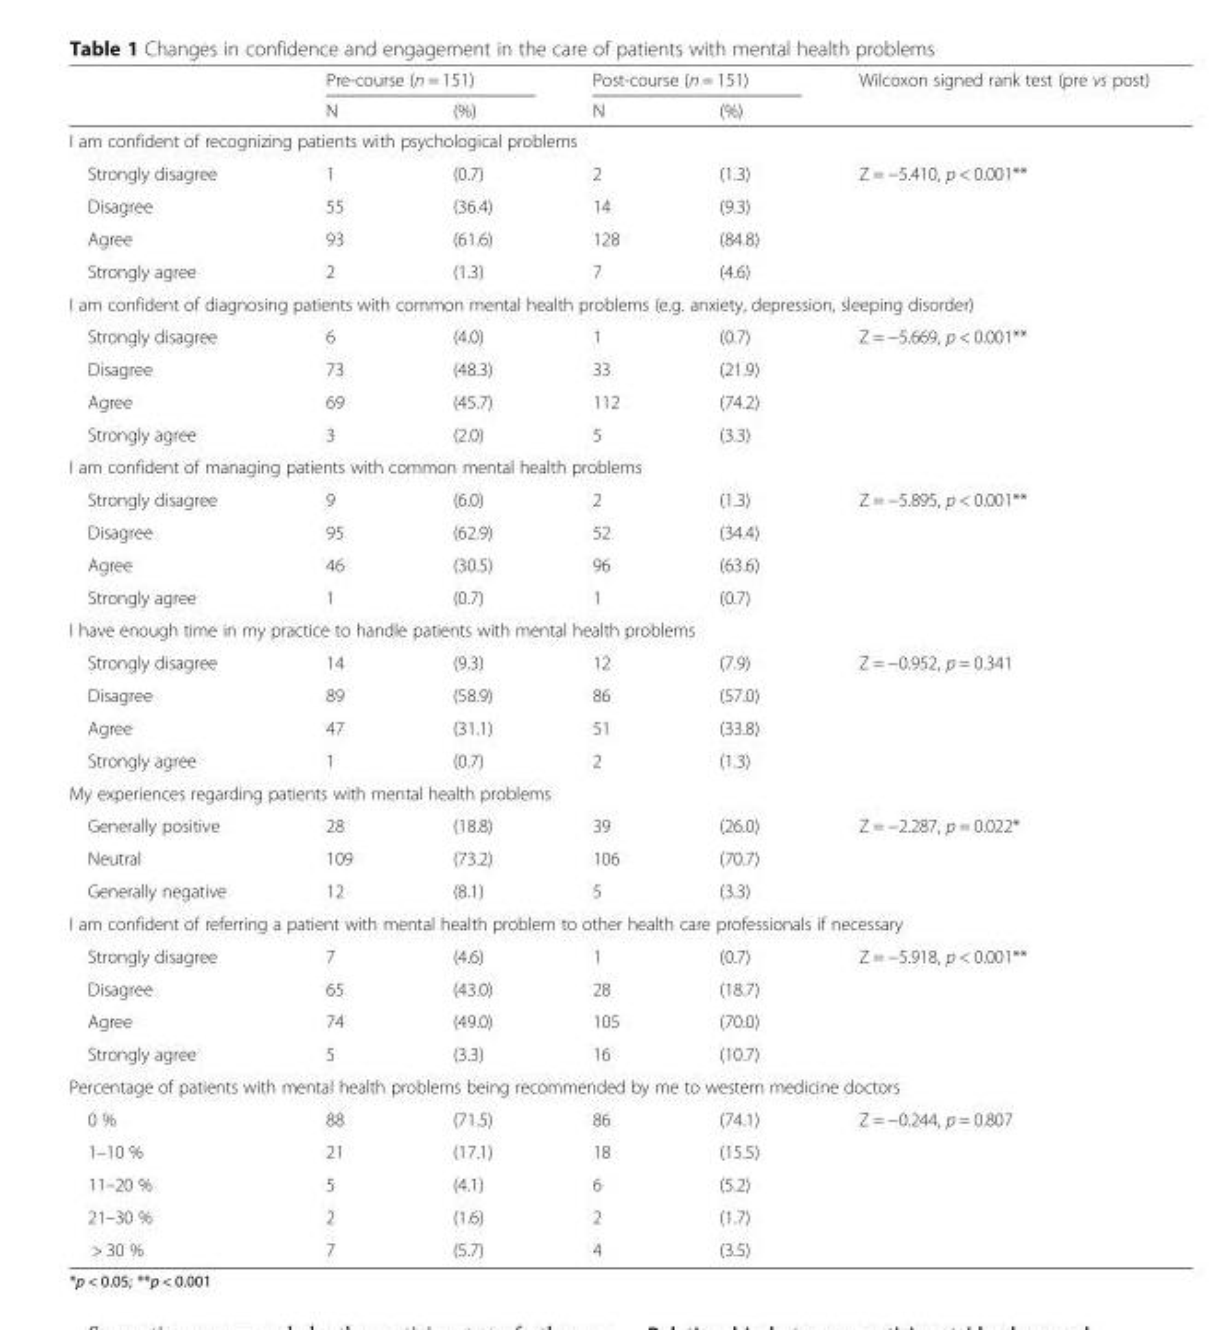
<table><thead><tr><td rowspan="2"></td><td colspan="2">Pre-course (n = 151)</td><td colspan="2">Post-course (n = 151)</td><td rowspan="2">Wilcoxon signed rank test (pre vs post)</td></tr><tr><td>N</td><td>(%)</td><td>N</td><td>(%)</td></tr></thead><tbody><tr><td colspan="6">I am confident of recognizing patients with psychological problems</td></tr><tr><td>Strongly disagree</td><td>1</td><td>(0.7)</td><td>2</td><td>(1.3)</td><td rowspan="4">Z = −5.410, p &lt; 0.001**</td></tr><tr><td>Disagree</td><td>55</td><td>(36.4)</td><td>14</td><td>(9.3)</td></tr><tr><td>Agree</td><td>93</td><td>(61.6)</td><td>128</td><td>(84.8)</td></tr><tr><td>Strongly agree</td><td>2</td><td>(1.3)</td><td>7</td><td>(4.6)</td></tr><tr><td colspan="6">I am confident of diagnosing patients with common mental health problems (e.g. anxiety, depression, sleeping disorder)</td></tr><tr><td>Strongly disagree</td><td>6</td><td>(4.0)</td><td>1</td><td>(0.7)</td><td rowspan="4">Z = −5.669, p &lt; 0.001**</td></tr><tr><td>Disagree</td><td>73</td><td>(48.3)</td><td>33</td><td>(21.9)</td></tr><tr><td>Agree</td><td>69</td><td>(45.7)</td><td>112</td><td>(74.2)</td></tr><tr><td>Strongly agree</td><td>3</td><td>(2.0)</td><td>5</td><td>(3.3)</td></tr><tr><td colspan="6">I am confident of managing patients with common mental health problems</td></tr><tr><td>Strongly disagree</td><td>9</td><td>(6.0)</td><td>2</td><td>(1.3)</td><td rowspan="4">Z = −5.895, p &lt; 0.001**</td></tr><tr><td>Disagree</td><td>95</td><td>(62.9)</td><td>52</td><td>(34.4)</td></tr><tr><td>Agree</td><td>46</td><td>(30.5)</td><td>96</td><td>(63.6)</td></tr><tr><td>Strongly agree</td><td>1</td><td>(0.7)</td><td>1</td><td>(0.7)</td></tr><tr><td colspan="6">I have enough time in my practice to handle patients with mental health problems</td></tr><tr><td>Strongly disagree</td><td>14</td><td>(9.3)</td><td>12</td><td>(7.9)</td><td rowspan="4">Z = −0.952, p = 0.341</td></tr><tr><td>Disagree</td><td>89</td><td>(58.9)</td><td>86</td><td>(57.0)</td></tr><tr><td>Agree</td><td>47</td><td>(31.1)</td><td>51</td><td>(33.8)</td></tr><tr><td>Strongly agree</td><td>1</td><td>(0.7)</td><td>2</td><td>(1.3)</td></tr><tr><td colspan="6">My experiences regarding patients with mental health problems</td></tr><tr><td>Generally positive</td><td>28</td><td>(18.8)</td><td>39</td><td>(26.0)</td><td rowspan="3">Z = −2.287, p = 0.022*</td></tr><tr><td>Neutral</td><td>109</td><td>(73.2)</td><td>106</td><td>(70.7)</td></tr><tr><td>Generally negative</td><td>12</td><td>(8.1)</td><td>5</td><td>(3.3)</td></tr><tr><td colspan="6">I am confident of referring a patient with mental health problem to other health care professionals if necessary</td></tr><tr><td>Strongly disagree</td><td>7</td><td>(4.6)</td><td>1</td><td>(0.7)</td><td rowspan="4">Z = −5.918, p &lt; 0.001**</td></tr><tr><td>Disagree</td><td>65</td><td>(43.0)</td><td>28</td><td>(18.7)</td></tr><tr><td>Agree</td><td>74</td><td>(49.0)</td><td>105</td><td>(70.0)</td></tr><tr><td>Strongly agree</td><td>5</td><td>(3.3)</td><td>16</td><td>(10.7)</td></tr><tr><td colspan="6">Percentage of patients with mental health problems being recommended by me to western medicine doctors</td></tr><tr><td>0 %</td><td>88</td><td>(71.5)</td><td>86</td><td>(74.1)</td><td rowspan="5">Z = −0.244, p = 0.807</td></tr><tr><td>1–10 %</td><td>21</td><td>(17.1)</td><td>18</td><td>(15.5)</td></tr><tr><td>11–20 %</td><td>5</td><td>(4.1)</td><td>6</td><td>(5.2)</td></tr><tr><td>21–30 %</td><td>2</td><td>(1.6)</td><td>2</td><td>(1.7)</td></tr><tr><td>&gt; 30 %</td><td>7</td><td>(5.7)</td><td>4</td><td>(3.5)</td></tr></tbody></table>